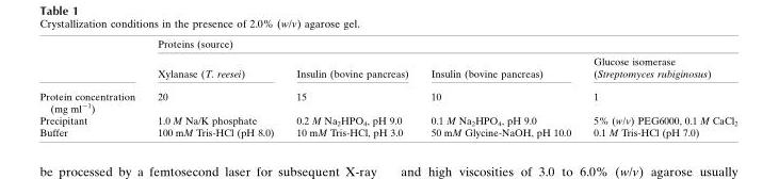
<table><thead><tr><td rowspan="2"></td><td colspan="4">Proteins (source)</td></tr><tr><td>Xylanase (T. reesei)</td><td>Insulin (bovine pancreas)</td><td>Insulin (bovine pancreas)</td><td>Glucose isomerase (Streptomyces rubiginosus)</td></tr></thead><tbody><tr><td>Protein concentration (mg ml<sup>−1</sup>)</td><td>20</td><td>15</td><td>10</td><td>1</td></tr><tr><td>Precipitant</td><td>1.0 M Na/K phosphate</td><td>0.2 M Na<sub>2</sub>HPO<sub>4</sub>, pH 9.0</td><td>0.1 M Na<sub>2</sub>HPO<sub>4</sub>, pH 9.0</td><td>5% (w/v) PEG6000, 0.1 M CaCl<sub>2</sub></td></tr><tr><td>Buffer</td><td>100 mM Tris-HCl (pH 8.0)</td><td>10 mM Tris-HCl, pH 3.0</td><td>50 mM Glycine-NaOH, pH 10.0</td><td>0.1 M Tris-HCl (pH 7.0)</td></tr></tbody></table>